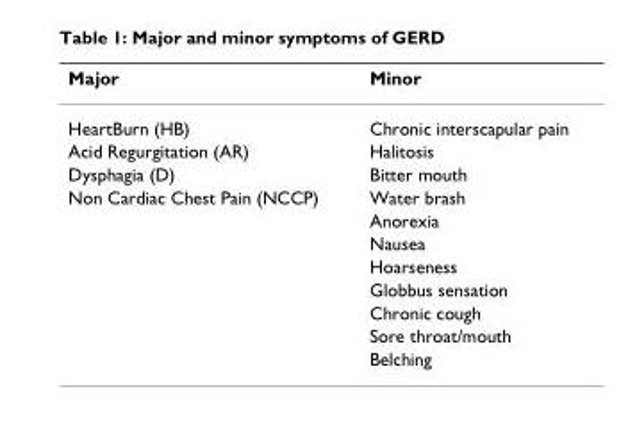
<table><thead><tr><td>Major</td><td>Minor</td></tr></thead><tbody><tr><td>HeartBurn (HB)</td><td>Chronic interscapular pain</td></tr><tr><td>Acid Regurgitation (AR)</td><td>Halitosis</td></tr><tr><td>Dysphagia (D)</td><td>Bitter mouth</td></tr><tr><td rowspan="8">Non Cardiac Chest Pain (NCCP)</td><td>Water brash</td></tr><tr><td>Anorexia</td></tr><tr><td>Nausea</td></tr><tr><td>Hoarseness</td></tr><tr><td>Globbus sensation</td></tr><tr><td>Chronic cough</td></tr><tr><td>Sore throat/mouth</td></tr><tr><td>Belching</td></tr></tbody></table>